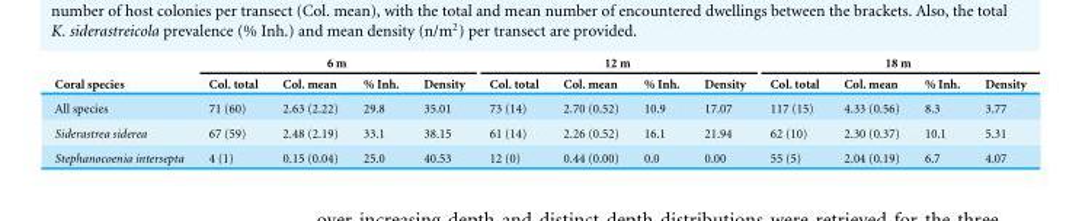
<table><thead><tr><td rowspan="2">Coral species</td><td colspan="4">6 m</td><td colspan="4">12 m</td><td colspan="4">18 m</td></tr><tr><td>Col. total</td><td>Col. mean</td><td>% Inh.</td><td>Density</td><td>Col. total</td><td>Col. mean</td><td>% Inh.</td><td>Density</td><td>Col. total</td><td>Col. mean</td><td>% Inh.</td><td>Density</td></tr></thead><tbody><tr><td>All species</td><td>71 (60)</td><td>2.63 (2.22)</td><td>29.8</td><td>35.01</td><td>73 (14)</td><td>2.70 (0.52)</td><td>10.9</td><td>17.07</td><td>117 (15)</td><td>4.33 (0.56)</td><td>8.3</td><td>3.77</td></tr><tr><td>Siderastrea siderea</td><td>67 (59)</td><td>2.48 (2.19)</td><td>33.1</td><td>38.15</td><td>61 (14)</td><td>2.26 (0.52)</td><td>16.1</td><td>21.94</td><td>62 (10)</td><td>2.30 (0.37)</td><td>10.1</td><td>5.31</td></tr><tr><td>Stephanocoenia intersepta</td><td>4 (1)</td><td>0.15 (0.04)</td><td>25.0</td><td>40.53</td><td>12 (0)</td><td>0.44 (0.00)</td><td>0.0</td><td>0.00</td><td>55 (5)</td><td>2.04 (0.19)</td><td>6.7</td><td>4.07</td></tr></tbody></table>